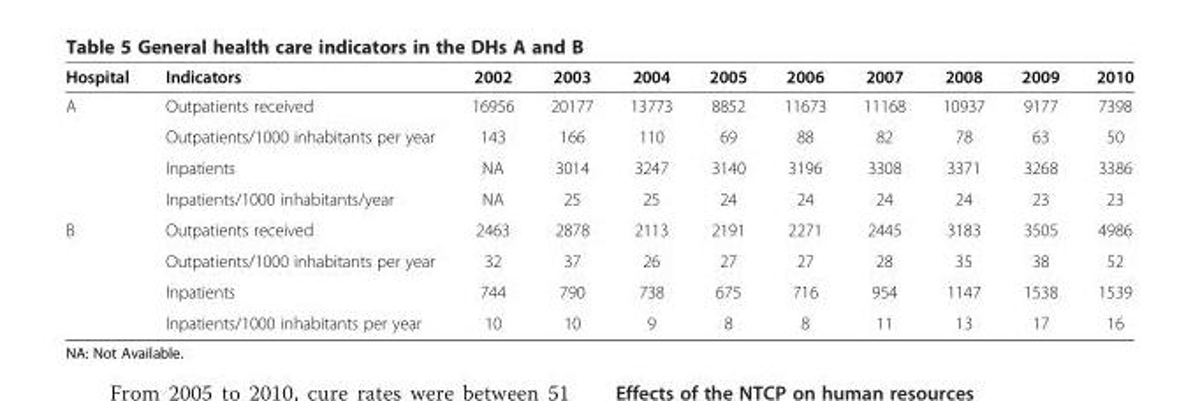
<table><thead><tr><td>Hospital</td><td>Indicators</td><td>2002</td><td>2003</td><td>2004</td><td>2005</td><td>2006</td><td>2007</td><td>2008</td><td>2009</td><td>2010</td></tr></thead><tbody><tr><td rowspan="4">A</td><td>Outpatients received</td><td>16956</td><td>20177</td><td>13773</td><td>8852</td><td>11673</td><td>11168</td><td>10937</td><td>9177</td><td>7398</td></tr><tr><td>Outpatients/1000 inhabitants per year</td><td>143</td><td>166</td><td>110</td><td>69</td><td>88</td><td>82</td><td>78</td><td>63</td><td>50</td></tr><tr><td>Inpatients</td><td>NA</td><td>3014</td><td>3247</td><td>3140</td><td>3196</td><td>3308</td><td>3371</td><td>3268</td><td>3386</td></tr><tr><td>Inpatients/1000 inhabitants/year</td><td>NA</td><td>25</td><td>25</td><td>24</td><td>24</td><td>24</td><td>24</td><td>23</td><td>23</td></tr><tr><td rowspan="4">B</td><td>Outpatients received</td><td>2463</td><td>2878</td><td>2113</td><td>2191</td><td>2271</td><td>2445</td><td>3183</td><td>3505</td><td>4986</td></tr><tr><td>Outpatients/1000 inhabitants per year</td><td>32</td><td>37</td><td>26</td><td>27</td><td>27</td><td>28</td><td>35</td><td>38</td><td>52</td></tr><tr><td>Inpatients</td><td>744</td><td>790</td><td>738</td><td>675</td><td>716</td><td>954</td><td>1147</td><td>1538</td><td>1539</td></tr><tr><td>Inpatients/1000 inhabitants per year</td><td>10</td><td>10</td><td>9</td><td>8</td><td>8</td><td>11</td><td>13</td><td>17</td><td>16</td></tr></tbody></table>